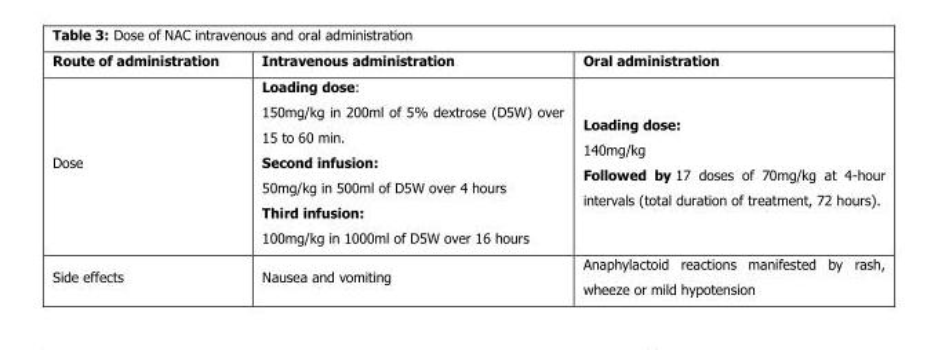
<table><thead><tr><td>Route of administration</td><td>Intravenous administration</td><td>Oral administration</td></tr></thead><tbody><tr><td>Dose</td><td>Loading dose: 150mg/kg in 200ml of 5% dextrose (D5W) over 15 to 60 min. Second infusion: 50mg/kg in 500ml of D5W over 4 hours Third infusion: 100mg/kg in 1000ml of D5W over 16 hours</td><td>Loading dose: 140mg/kg Followed by 17 doses of 70mg/kg at 4-hour intervals (total duration of treatment, 72 hours).</td></tr><tr><td>Side effects</td><td>Nausea and vomiting</td><td>Anaphylactoid reactions manifested by rash, wheeze or mild hypotension</td></tr></tbody></table>